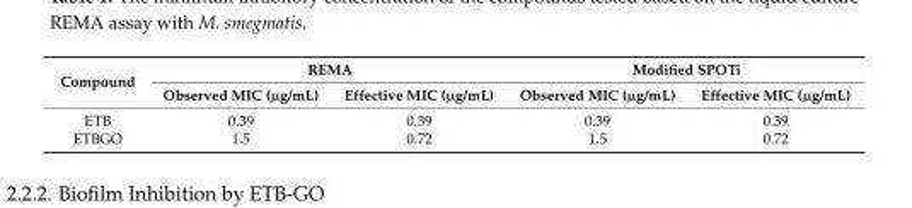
<table><thead><tr><td rowspan="2">Compound</td><td colspan="2">REMA</td><td colspan="2">Modified SPOTi</td></tr><tr><td>Observed MIC (µg/mL)</td><td>Effective MIC (µg/mL)</td><td>Observed MIC (µg/mL)</td><td>Effective MIC (µg/mL)</td></tr></thead><tbody><tr><td>ETB</td><td>0.39</td><td>0.39</td><td>0.39</td><td>0.39</td></tr><tr><td>ETBGO</td><td>1.5</td><td>0.72</td><td>1.5</td><td>0.72</td></tr></tbody></table>